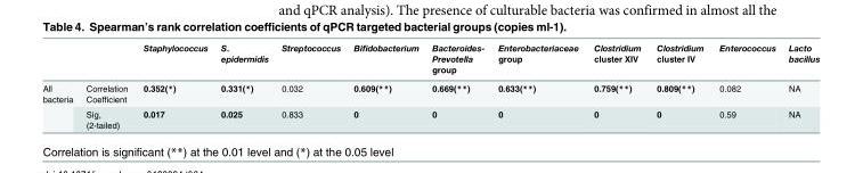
<table><thead><tr><td></td><td></td><td>Staphylococcus</td><td>S. epidermidis</td><td>Streptococcus</td><td>Bifidobacterium</td><td>Bacteroides- Prevotella group</td><td>Enterobacteriaceae group</td><td>Clostridium cluster XIV</td><td>Clostridium cluster IV</td><td>Enterococcus</td><td>Lacto bacillus</td></tr></thead><tbody><tr><td rowspan="2">All bacteria</td><td>Correlation Coefficient</td><td>0.352(*)</td><td>0.331(*)</td><td>0.032</td><td>0.609(**)</td><td>0.669(**)</td><td>0.633(**)</td><td>0.759(**)</td><td>0.809(**)</td><td>0.082</td><td>NA</td></tr><tr><td>Sig, (2-tailed)</td><td>0.017</td><td>0.025</td><td>0.833</td><td>0</td><td>0</td><td>0</td><td>0</td><td>0</td><td>0.59</td><td>NA</td></tr></tbody></table>